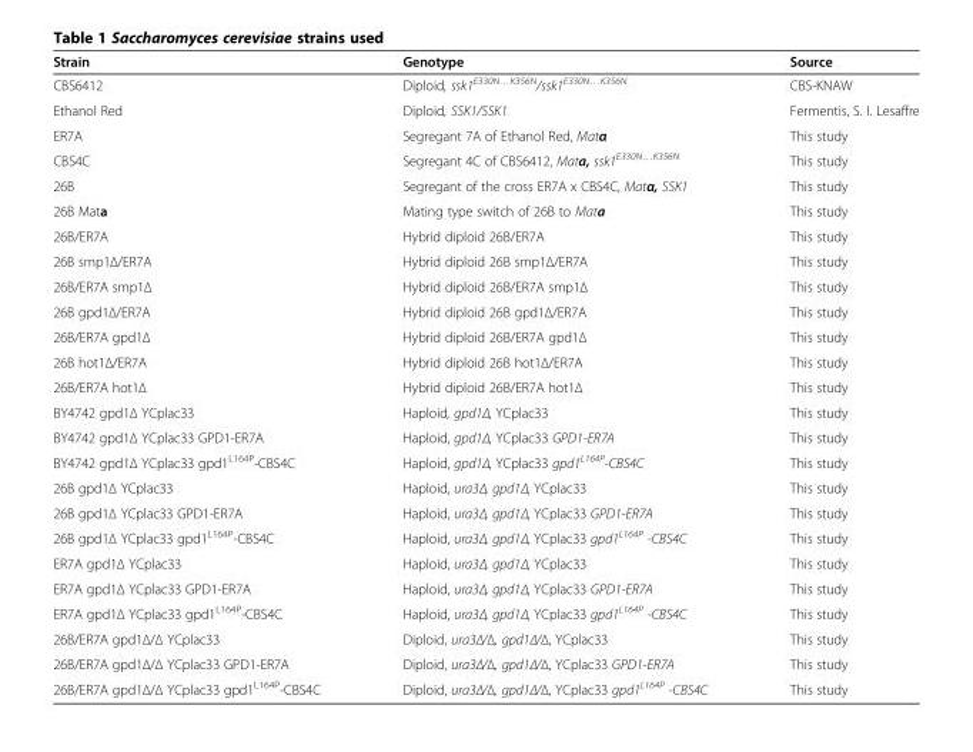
<table><thead><tr><td>Strain</td><td>Genotype</td><td>Source</td></tr></thead><tbody><tr><td>CBS6412</td><td>Diploid, ssk1<sup>E330N…K356N</sup>/ssk1<sup>E330N…K356N</sup></td><td>CBS-KNAW</td></tr><tr><td>Ethanol Red</td><td>Diploid, SSK1/SSK1</td><td>Fermentis, S. I. Lesaffre</td></tr><tr><td>ER7A</td><td>Segregant 7A of Ethanol Red, Matα</td><td>This study</td></tr><tr><td>CBS4C</td><td>Segregant 4C of CBS6412, Mata, ssk1<sup>E330N…K356N</sup></td><td>This study</td></tr><tr><td>26B</td><td>Segregant of the cross ER7A x CBS4C, Matα, SSK1</td><td>This study</td></tr><tr><td>26B Mata</td><td>Mating type switch of 26B to Mata</td><td>This study</td></tr><tr><td>26B/ER7A</td><td>Hybrid diploid 26B/ER7A</td><td>This study</td></tr><tr><td>26B smp1Δ/ER7A</td><td>Hybrid diploid 26B smp1Δ/ER7A</td><td>This study</td></tr><tr><td>26B/ER7A smp1Δ</td><td>Hybrid diploid 26B/ER7A smp1Δ</td><td>This study</td></tr><tr><td>26B gpd1Δ/ER7A</td><td>Hybrid diploid 26B gpd1Δ/ER7A</td><td>This study</td></tr><tr><td>26B/ER7A gpd1Δ</td><td>Hybrid diploid 26B/ER7A gpd1Δ</td><td>This study</td></tr><tr><td>26B hot1Δ/ER7A</td><td>Hybrid diploid 26B hot1Δ/ER7A</td><td>This study</td></tr><tr><td>26B/ER7A hot1Δ</td><td>Hybrid diploid 26B/ER7A hot1Δ</td><td>This study</td></tr><tr><td>BY4742 gpd1Δ YCplac33</td><td>Haploid, gpd1Δ, YCplac33</td><td>This study</td></tr><tr><td>BY4742 gpd1Δ YCplac33 GPD1-ER7A</td><td>Haploid, gpd1Δ, YCplac33 GPD1-ER7A</td><td>This study</td></tr><tr><td>BY4742 gpd1Δ YCplac33 gpd1L164P-CBS4C</td><td>Haploid, gpd1Δ, YCplac33 gpd1L164P-CBS4C</td><td>This study</td></tr><tr><td>26B gpd1Δ YCplac33</td><td>Haploid, ura3Δ, gpd1Δ, YCplac33</td><td>This study</td></tr><tr><td>26B gpd1Δ YCplac33 GPD1-ER7A</td><td>Haploid, ura3Δ, gpd1Δ, YCplac33 GPD1-ER7A</td><td>This study</td></tr><tr><td>26B gpd1Δ YCplac33 gpd1L164P-CBS4C</td><td>Haploid, ura3Δ, gpd1Δ, YCplac33 gpd1L164P -CBS4C</td><td>This study</td></tr><tr><td>ER7A gpd1Δ YCplac33</td><td>Haploid, ura3Δ, gpd1Δ, YCplac33</td><td>This study</td></tr><tr><td>ER7A gpd1Δ YCplac33 GPD1-ER7A</td><td>Haploid, ura3Δ, gpd1Δ, YCplac33 GPD1-ER7A</td><td>This study</td></tr><tr><td>ER7A gpd1Δ YCplac33 gpd1L164P-CBS4C</td><td>Haploid, ura3Δ, gpd1Δ, YCplac33 gpd1L164P -CBS4C</td><td>This study</td></tr><tr><td>26B/ER7A gpd1Δ/Δ YCplac33</td><td>Diploid, ura3Δ/Δ, gpd1Δ/Δ, YCplac33</td><td>This study</td></tr><tr><td>26B/ER7A gpd1Δ/Δ YCplac33 GPD1-ER7A</td><td>Diploid, ura3Δ/Δ, gpd1Δ/Δ, YCplac33 GPD1-ER7A</td><td>This study</td></tr><tr><td>26B/ER7A gpd1Δ/Δ YCplac33 gpd1L164P-CBS4C</td><td>Diploid, ura3Δ/Δ, gpd1Δ/Δ, YCplac33 gpd1L164P -CBS4C</td><td>This study</td></tr></tbody></table>